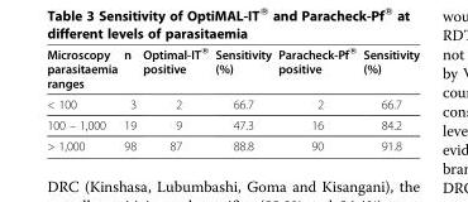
<table><thead><tr><td>Microscopy parasitaemia ranges</td><td>n</td><td>Optimal-IT® positive</td><td>Sensitivity (%)</td><td>Paracheck-Pf® positive</td><td>Sensitivity (%)</td></tr></thead><tbody><tr><td>&lt; 100</td><td>3</td><td>2</td><td>66.7</td><td>2</td><td>66.7</td></tr><tr><td>100 – 1,000</td><td>19</td><td>9</td><td>47.3</td><td>16</td><td>84.2</td></tr><tr><td>&gt; 1,000</td><td>98</td><td>87</td><td>88.8</td><td>90</td><td>91.8</td></tr></tbody></table>